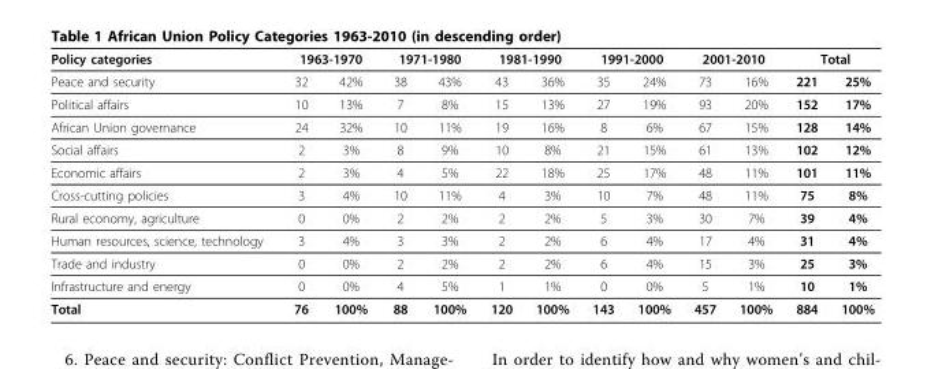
<table><thead><tr><td rowspan="2">Policy categories Peace and security</td><td colspan="2">1963-1970</td><td colspan="2">1971-1980</td><td colspan="2">1981-1990</td><td colspan="2">1991-2000</td><td colspan="2">2001-2010</td><td colspan="2">Total</td></tr><tr><td>32</td><td>42%</td><td>38</td><td>43%</td><td>43</td><td>36%</td><td>35</td><td>24%</td><td>73</td><td>16%</td><td>221</td><td>25%</td></tr></thead><tbody><tr><td>Political affairs</td><td>10</td><td>13%</td><td>7</td><td>8%</td><td>15</td><td>13%</td><td>27</td><td>19%</td><td>93</td><td>20%</td><td>152</td><td>17%</td></tr><tr><td>African Union governance</td><td>24</td><td>32%</td><td>10</td><td>11%</td><td>19</td><td>16%</td><td>8</td><td>6%</td><td>67</td><td>15%</td><td>128</td><td>14%</td></tr><tr><td>Social affairs</td><td>2</td><td>3%</td><td>8</td><td>9%</td><td>10</td><td>8%</td><td>21</td><td>15%</td><td>61</td><td>13%</td><td>102</td><td>12%</td></tr><tr><td>Economic affairs</td><td>2</td><td>3%</td><td>4</td><td>5%</td><td>22</td><td>18%</td><td>25</td><td>17%</td><td>48</td><td>11%</td><td>101</td><td>11%</td></tr><tr><td>Cross-cutting policies</td><td>3</td><td>4%</td><td>10</td><td>11%</td><td>4</td><td>3%</td><td>10</td><td>7%</td><td>48</td><td>11%</td><td>75</td><td>8%</td></tr><tr><td>Rural economy, agriculture</td><td>0</td><td>0%</td><td>2</td><td>2%</td><td>2</td><td>2%</td><td>5</td><td>3%</td><td>30</td><td>7%</td><td>39</td><td>4%</td></tr><tr><td>Human resources, science, technology</td><td>3</td><td>4%</td><td>3</td><td>3%</td><td>2</td><td>2%</td><td>6</td><td>4%</td><td>17</td><td>4%</td><td>31</td><td>4%</td></tr><tr><td>Trade and industry</td><td>0</td><td>0%</td><td>2</td><td>2%</td><td>2</td><td>2%</td><td>6</td><td>4%</td><td>15</td><td>3%</td><td>25</td><td>3%</td></tr><tr><td>Infrastructure and energy</td><td>0</td><td>0%</td><td>4</td><td>5%</td><td>1</td><td>1%</td><td>0</td><td>0%</td><td>5</td><td>1%</td><td>10</td><td>1%</td></tr><tr><td>Total</td><td>76</td><td>100%</td><td>88</td><td>100%</td><td>120</td><td>100%</td><td>143</td><td>100%</td><td>457</td><td>100%</td><td>884</td><td>100%</td></tr></tbody></table>